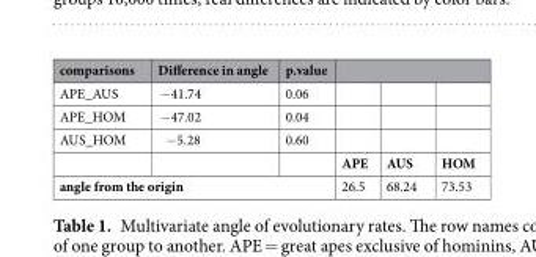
<table><thead><tr><td>comparisons</td><td>Difference in angle</td><td>p.value</td><td></td><td></td><td></td></tr></thead><tbody><tr><td>APE_AUS</td><td>−41.74</td><td>0.06</td><td></td><td></td><td></td></tr><tr><td>APE_HOM</td><td>−47.02</td><td>0.04</td><td></td><td></td><td></td></tr><tr><td rowspan="2">AUS_HOM</td><td>−5.28</td><td>0.60</td><td></td><td></td><td></td></tr><tr><td></td><td></td><td>APE</td><td>AUS</td><td>HOM</td></tr><tr><td colspan="3">angle from the origin</td><td>26.5</td><td>68.24</td><td>73.53</td></tr></tbody></table>